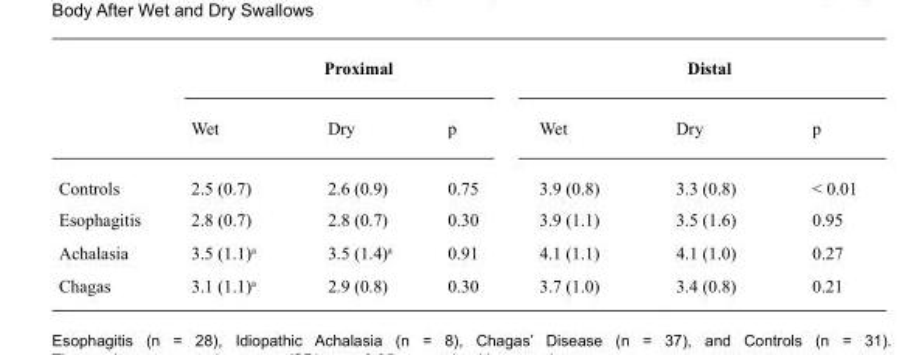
<table><thead><tr><td rowspan="2"></td><td colspan="3">Proximal</td><td colspan="3">Distal</td></tr><tr><td>Wet</td><td>Dry</td><td>p</td><td>Wet</td><td>Dry</td><td>p</td></tr></thead><tbody><tr><td>Controls</td><td>2.5 (0.7)</td><td>2.6 (0.9)</td><td>0.75</td><td>3.9 (0.8)</td><td>3.3 (0.8)</td><td>&lt; 0.01</td></tr><tr><td>Esophagitis</td><td>2.8 (0.7)</td><td>2.8 (0.7)</td><td>0.30</td><td>3.9 (1.1)</td><td>3.5 (1.6)</td><td>0.95</td></tr><tr><td>Achalasia</td><td>3.5 (1.1)<sup>a</sup></td><td>3.5 (1.4)<sup>a</sup></td><td>0.91</td><td>4.1 (1.1)</td><td>4.1 (1.0)</td><td>0.27</td></tr><tr><td>Chagas</td><td>3.1 (1.1)<sup>a</sup></td><td>2.9 (0.8)</td><td>0.30</td><td>3.7 (1.0)</td><td>3.4 (0.8)</td><td>0.21</td></tr></tbody></table>